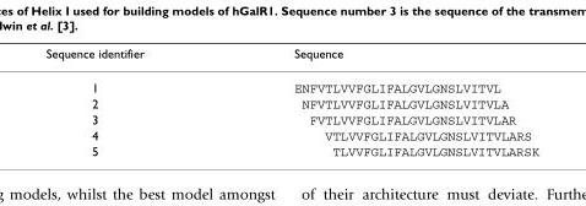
<table><thead><tr><td>Sequence identifier</td><td>Sequence</td></tr></thead><tbody><tr><td>1</td><td>ENFVTLVVFGLIFALGVLGNSLVITVL</td></tr><tr><td>2</td><td>NFVTLVVFGLIFALGVLGNSLVITVLA</td></tr><tr><td>3</td><td>FVTLVVFGLIFALGVLGNSLVITVLAR</td></tr><tr><td>4</td><td>VTLVVFGLIFALGVLGNSLVITVLARS</td></tr><tr><td>5</td><td>TLVVFGLIFALGVLGNSLVITVLARSK</td></tr></tbody></table>